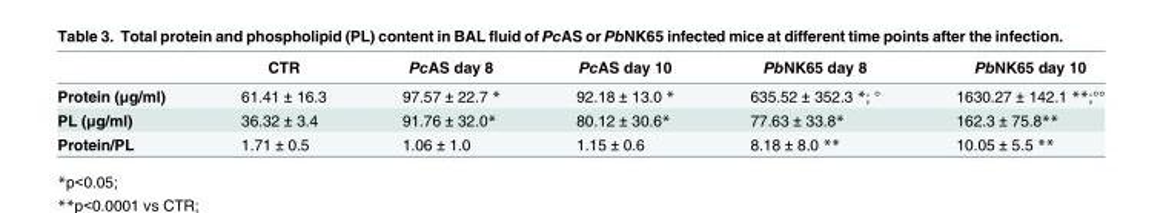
<table><thead><tr><td></td><td>CTR</td><td>PcAS day 8</td><td>PcAS day 10</td><td>PbNK65 day 8</td><td>PbNK65 day 10</td></tr></thead><tbody><tr><td>Protein (μg/ml)</td><td>61.41 ± 16.3</td><td>97.57 ± 22.7 *</td><td>92.18 ± 13.0 *</td><td>635.52 ± 352.3 *; °</td><td>1630.27 ± 142.1 **;°°</td></tr><tr><td>PL (μg/ml)</td><td>36.32 ± 3.4</td><td>91.76 ± 32.0*</td><td>80.12 ± 30.6*</td><td>77.63 ± 33.8*</td><td>162.3 ± 75.8**</td></tr><tr><td>Protein/PL</td><td>1.71 ± 0.5</td><td>1.06 ± 1.0</td><td>1.15 ± 0.6</td><td>8.18 ± 8.0 **</td><td>10.05 ± 5.5 **</td></tr></tbody></table>